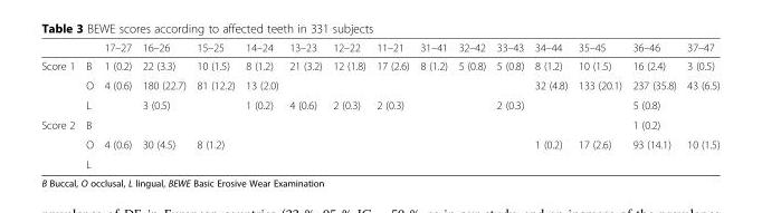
<table><thead><tr><td></td><td></td><td>17–27</td><td>16–26</td><td>15–25</td><td>14–24</td><td>13–23</td><td>12–22</td><td>11–21</td><td>31–41</td><td>32–42</td><td>33–43</td><td>34–44</td><td>35–45</td><td>36–46</td><td>37–47</td></tr></thead><tbody><tr><td rowspan="3">Score 1</td><td>B</td><td>1 (0.2)</td><td>22 (3.3)</td><td>10 (1.5)</td><td>8 (1.2)</td><td>21 (3.2)</td><td>12 (1.8)</td><td>17 (2.6)</td><td>8 (1.2)</td><td>5 (0.8)</td><td>5 (0.8)</td><td>8 (1.2)</td><td>10 (1.5)</td><td>16 (2.4)</td><td>3 (0.5)</td></tr><tr><td>O</td><td>4 (0.6)</td><td>180 (22.7)</td><td>81 (12.2)</td><td>13 (2.0)</td><td></td><td></td><td></td><td></td><td></td><td></td><td>32 (4.8)</td><td>133 (20.1)</td><td>237 (35.8)</td><td>43 (6.5)</td></tr><tr><td>L</td><td></td><td>3 (0.5)</td><td></td><td>1 (0.2)</td><td>4 (0.6)</td><td>2 (0.3)</td><td>2 (0.3)</td><td></td><td></td><td>2 (0.3)</td><td></td><td></td><td>5 (0.8)</td><td></td></tr><tr><td rowspan="3">Score 2</td><td>B</td><td></td><td></td><td></td><td></td><td></td><td></td><td></td><td></td><td></td><td></td><td></td><td></td><td>1 (0.2)</td><td></td></tr><tr><td>O</td><td>4 (0.6)</td><td>30 (4.5)</td><td>8 (1.2)</td><td></td><td></td><td></td><td></td><td></td><td></td><td></td><td>1 (0.2)</td><td>17 (2.6)</td><td>93 (14.1)</td><td>10 (1.5)</td></tr><tr><td>L</td><td></td><td></td><td></td><td></td><td></td><td></td><td></td><td></td><td></td><td></td><td></td><td></td><td></td><td></td></tr></tbody></table>